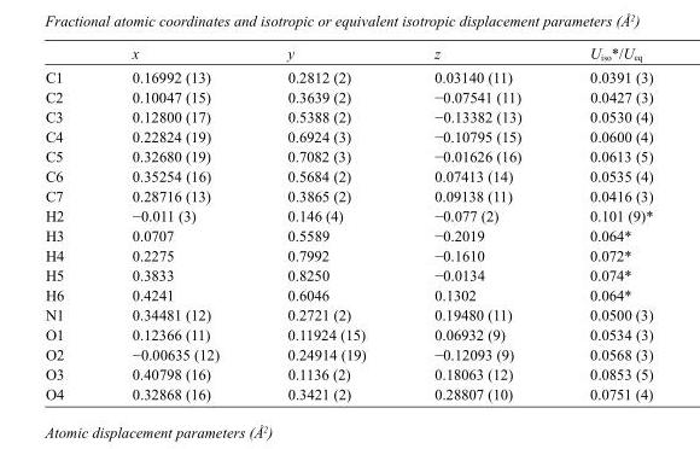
<table><thead><tr><td></td><td>x</td><td>y</td><td>z</td><td>U<sub>iso</sub>*/U<sub>eq</sub></td></tr></thead><tbody><tr><td>C1</td><td>0.16992 (13)</td><td>0.2812 (2)</td><td>0.03140 (11)</td><td>0.0391 (3)</td></tr><tr><td>C2</td><td>0.10047 (15)</td><td>0.3639 (2)</td><td>−0.07541 (11)</td><td>0.0427 (3)</td></tr><tr><td>C3</td><td>0.12800 (17)</td><td>0.5388 (2)</td><td>−0.13382 (13)</td><td>0.0530 (4)</td></tr><tr><td>C4</td><td>0.22824 (19)</td><td>0.6924 (3)</td><td>−0.10795 (15)</td><td>0.0600 (4)</td></tr><tr><td>C5</td><td>0.32680 (19)</td><td>0.7082 (3)</td><td>−0.01626 (16)</td><td>0.0613 (5)</td></tr><tr><td>C6</td><td>0.35254 (16)</td><td>0.5684 (2)</td><td>0.07413 (14)</td><td>0.0535 (4)</td></tr><tr><td>C7</td><td>0.28716 (13)</td><td>0.3865 (2)</td><td>0.09138 (11)</td><td>0.0416 (3)</td></tr><tr><td>H2</td><td>−0.011 (3)</td><td>0.146 (4)</td><td>−0.077 (2)</td><td>0.101 (9)*</td></tr><tr><td>H3</td><td>0.0707</td><td>0.5589</td><td>−0.2019</td><td>0.064*</td></tr><tr><td>H4</td><td>0.2275</td><td>0.7992</td><td>−0.1610</td><td>0.072*</td></tr><tr><td>H5</td><td>0.3833</td><td>0.8250</td><td>−0.0134</td><td>0.074*</td></tr><tr><td>H6</td><td>0.4241</td><td>0.6046</td><td>0.1302</td><td>0.064*</td></tr><tr><td>N1</td><td>0.34481 (12)</td><td>0.2721 (2)</td><td>0.19480 (11)</td><td>0.0500 (3)</td></tr><tr><td>O1</td><td>0.12366 (11)</td><td>0.11924 (15)</td><td>0.06932 (9)</td><td>0.0534 (3)</td></tr><tr><td>O2</td><td>−0.00635 (12)</td><td>0.24914 (19)</td><td>−0.12093 (9)</td><td>0.0568 (3)</td></tr><tr><td>O3</td><td>0.40798 (16)</td><td>0.1136 (2)</td><td>0.18063 (12)</td><td>0.0853 (5)</td></tr><tr><td>O4</td><td>0.32868 (16)</td><td>0.3421 (2)</td><td>0.28807 (10)</td><td>0.0751 (4)</td></tr></tbody></table>